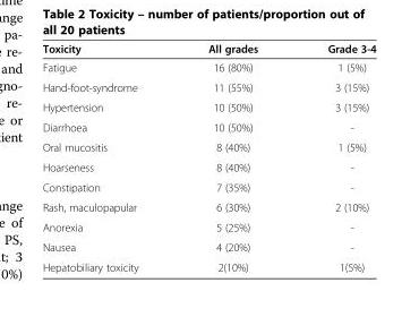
<table><thead><tr><td>Toxicity</td><td>All grades</td><td>Grade 3-4</td></tr></thead><tbody><tr><td>Fatigue</td><td>16 (80%)</td><td>1 (5%)</td></tr><tr><td>Hand-foot-syndrome</td><td>11 (55%)</td><td>3 (15%)</td></tr><tr><td>Hypertension</td><td>10 (50%)</td><td>3 (15%)</td></tr><tr><td>Diarrhoea</td><td>10 (50%)</td><td>-</td></tr><tr><td>Oral mucositis</td><td>8 (40%)</td><td>1 (5%)</td></tr><tr><td>Hoarseness</td><td>8 (40%)</td><td>-</td></tr><tr><td>Constipation</td><td>7 (35%)</td><td>-</td></tr><tr><td>Rash, maculopapular</td><td>6 (30%)</td><td>2 (10%)</td></tr><tr><td>Anorexia</td><td>5 (25%)</td><td>-</td></tr><tr><td>Nausea</td><td>4 (20%)</td><td>-</td></tr><tr><td>Hepatobiliary toxicity</td><td>2(10%)</td><td>1(5%)</td></tr></tbody></table>